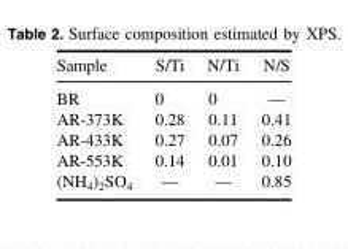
<table><thead><tr><td>Sample</td><td>S/Ti</td><td>N/Ti</td><td>N/S</td></tr></thead><tbody><tr><td>BR</td><td>0</td><td>0</td><td>—</td></tr><tr><td>AR-373K</td><td>0.28</td><td>0.11</td><td>0.41</td></tr><tr><td>AR-433K</td><td>0.27</td><td>0.07</td><td>0.26</td></tr><tr><td>AR-553K</td><td>0.14</td><td>0.01</td><td>0.10</td></tr><tr><td>(NH<sub>4</sub>)<sub>2</sub>SO<sub>4</sub></td><td>—</td><td>—</td><td>0.85</td></tr></tbody></table>